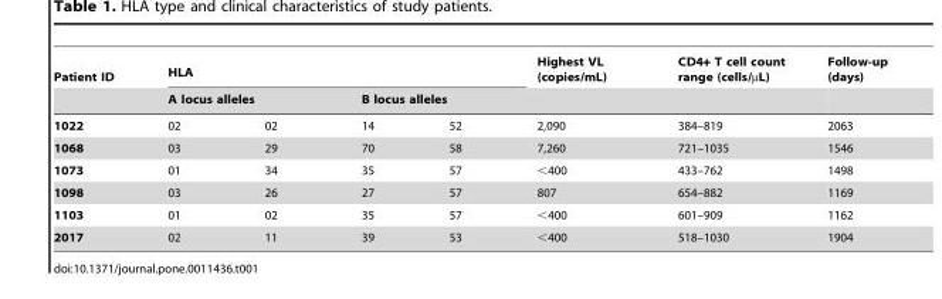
<table><thead><tr><td rowspan="3">Patient ID 1022</td><td colspan="4">HLA</td><td rowspan="3">Highest VL (copies/mL) 2,090</td><td rowspan="3">CD4+ T cell count range (cells/µL) 384–819</td><td rowspan="3">Follow-up (days) 2063</td></tr><tr><td colspan="2">A locus alleles</td><td colspan="2">B locus alleles</td></tr><tr><td>02</td><td>02</td><td>14</td><td>52</td></tr></thead><tbody><tr><td>1068</td><td>03</td><td>29</td><td>70</td><td>58</td><td>7,260</td><td>721–1035</td><td>1546</td></tr><tr><td>1073</td><td>01</td><td>34</td><td>35</td><td>57</td><td>&lt;400</td><td>433–762</td><td>1498</td></tr><tr><td>1098</td><td>03</td><td>26</td><td>27</td><td>57</td><td>807</td><td>654–882</td><td>1169</td></tr><tr><td>1103</td><td>01</td><td>02</td><td>35</td><td>57</td><td>&lt;400</td><td>601–909</td><td>1162</td></tr><tr><td>2017</td><td>02</td><td>11</td><td>39</td><td>53</td><td>&lt;400</td><td>518–1030</td><td>1904</td></tr></tbody></table>